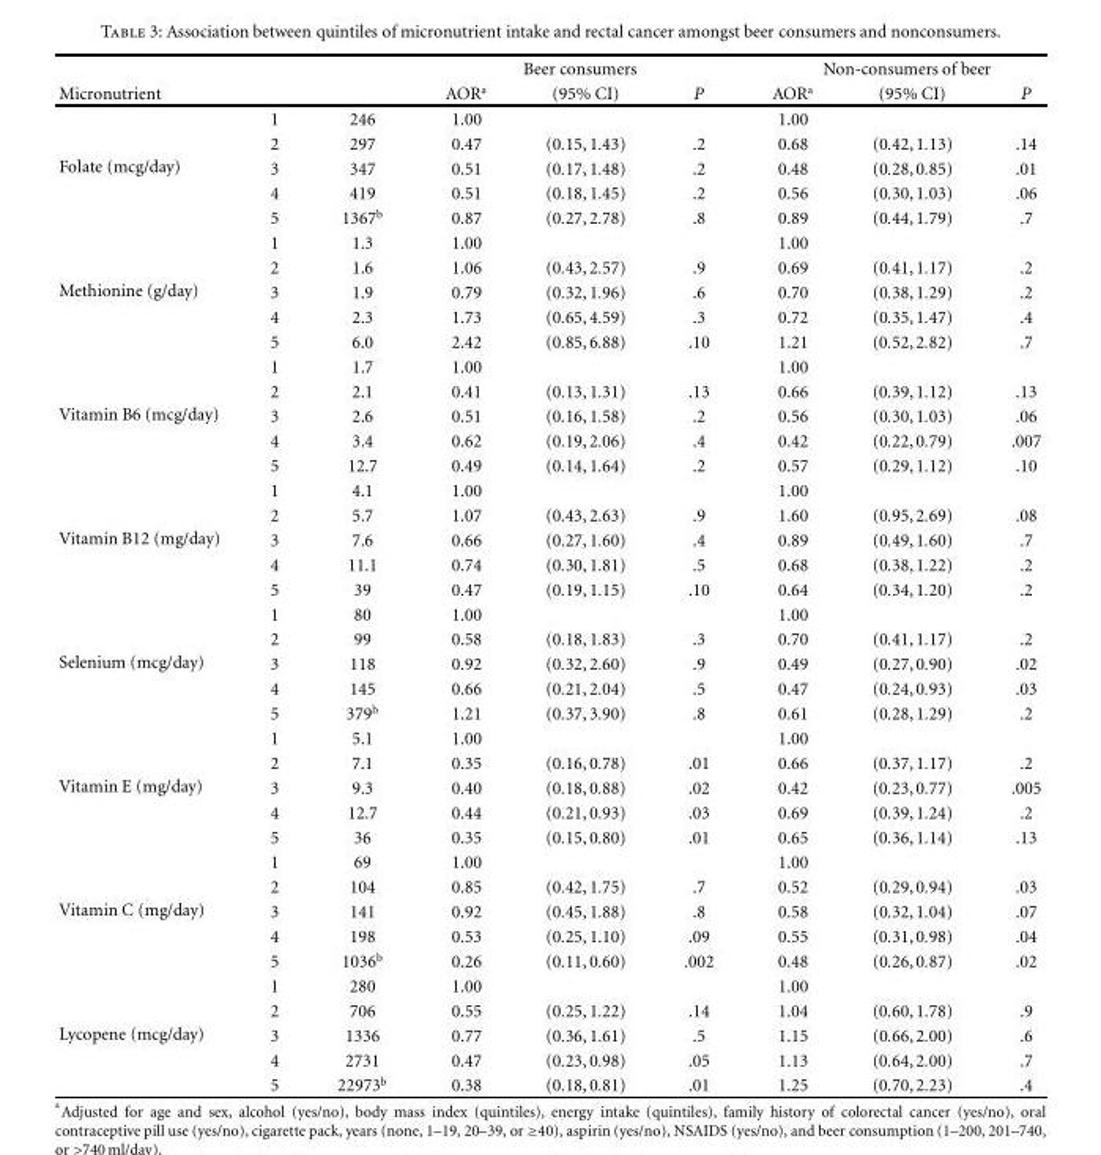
<table><thead><tr><td rowspan="2">Micronutrient</td><td rowspan="2"></td><td rowspan="2"></td><td colspan="3">Beer consumers</td><td colspan="3">Non-consumers of beer</td></tr><tr><td>AOR<sup>a</sup></td><td>(95% CI)</td><td>P</td><td>AOR<sup>a</sup></td><td>(95% CI)</td><td>P</td></tr></thead><tbody><tr><td rowspan="5">Folate (mcg/day)</td><td>1</td><td>246</td><td>1.00</td><td></td><td></td><td>1.00</td><td></td><td></td></tr><tr><td>2</td><td>297</td><td>0.47</td><td>(0.15,1.43)</td><td>.2</td><td>0.68</td><td>(0.42,1.13)</td><td>.14</td></tr><tr><td>3</td><td>347</td><td>0.51</td><td>(0.17,1.48)</td><td>.2</td><td>0.48</td><td>(0.28,0.85)</td><td>.01</td></tr><tr><td>4</td><td>419</td><td>0.51</td><td>(0.18,1.45)</td><td>.2</td><td>0.56</td><td>(0.30,1.03)</td><td>.06</td></tr><tr><td>5</td><td>1367<sup>b</sup></td><td>0.87</td><td>(0.27,2.78)</td><td>.8</td><td>0.89</td><td>(0.44,1.79)</td><td>.7</td></tr><tr><td rowspan="5">Methionine (g/day)</td><td>1</td><td>1.3</td><td>1.00</td><td></td><td></td><td>1.00</td><td></td><td></td></tr><tr><td>2</td><td>1.6</td><td>1.06</td><td>(0.43,2.57)</td><td>.9</td><td>0.69</td><td>(0.41,1.17)</td><td>.2</td></tr><tr><td>3</td><td>1.9</td><td>0.79</td><td>(0.32,1.96)</td><td>.6</td><td>0.70</td><td>(0.38,1.29)</td><td>.2</td></tr><tr><td>4</td><td>2.3</td><td>1.73</td><td>(0.65,4.59)</td><td>.3</td><td>0.72</td><td>(0.35,1.47)</td><td>.4</td></tr><tr><td>5</td><td>6.0</td><td>2.42</td><td>(0.85,6.88)</td><td>.10</td><td>1.21</td><td>(0.52,2.82)</td><td>.7</td></tr><tr><td rowspan="5">Vitamin B6 (mcg/day)</td><td>1</td><td>1.7</td><td>1.00</td><td></td><td></td><td>1.00</td><td></td><td></td></tr><tr><td>2</td><td>2.1</td><td>0.41</td><td>(0.13,1.31)</td><td>.13</td><td>0.66</td><td>(0.39,1.12)</td><td>.13</td></tr><tr><td>3</td><td>2.6</td><td>0.51</td><td>(0.16,1.58)</td><td>.2</td><td>0.56</td><td>(0.30,1.03)</td><td>.06</td></tr><tr><td>4</td><td>3.4</td><td>0.62</td><td>(0.19,2.06)</td><td>.4</td><td>0.42</td><td>(0.22,0.79)</td><td>.007</td></tr><tr><td>5</td><td>12.7</td><td>0.49</td><td>(0.14,1.64)</td><td>.2</td><td>0.57</td><td>(0.29,1.12)</td><td>.10</td></tr><tr><td rowspan="5">Vitamin B12 (mg/day)</td><td>1</td><td>4.1</td><td>1.00</td><td></td><td></td><td>1.00</td><td></td><td></td></tr><tr><td>2</td><td>5.7</td><td>1.07</td><td>(0.43,2.63)</td><td>.9</td><td>1.60</td><td>(0.95,2.69)</td><td>.08</td></tr><tr><td>3</td><td>7.6</td><td>0.66</td><td>(0.27,1.60)</td><td>.4</td><td>0.89</td><td>(0.49,1.60)</td><td>.7</td></tr><tr><td>4</td><td>11.1</td><td>0.74</td><td>(0.30,1.81)</td><td>.5</td><td>0.68</td><td>(0.38,1.22)</td><td>.2</td></tr><tr><td>5</td><td>39</td><td>0.47</td><td>(0.19,1.15)</td><td>.10</td><td>0.64</td><td>(0.34,1.20)</td><td>.2</td></tr><tr><td rowspan="5">Selenium (mcg/day)</td><td>1</td><td>80</td><td>1.00</td><td></td><td></td><td>1.00</td><td></td><td></td></tr><tr><td>2</td><td>99</td><td>0.58</td><td>(0.18,1.83)</td><td>.3</td><td>0.70</td><td>(0.41,1.17)</td><td>.2</td></tr><tr><td>3</td><td>118</td><td>0.92</td><td>(0.32,2.60)</td><td>.9</td><td>0.49</td><td>(0.27,0.90)</td><td>.02</td></tr><tr><td>4</td><td>145</td><td>0.66</td><td>(0.21,2.04)</td><td>.5</td><td>0.47</td><td>(0.24,0.93)</td><td>.03</td></tr><tr><td>5</td><td>379<sup>b</sup></td><td>1.21</td><td>(0.37,3.90)</td><td>.8</td><td>0.61</td><td>(0.28,1.29)</td><td>.2</td></tr><tr><td rowspan="5">Vitamin E (mg/day)</td><td>1</td><td>5.1</td><td>1.00</td><td></td><td></td><td>1.00</td><td></td><td></td></tr><tr><td>2</td><td>7.1</td><td>0.35</td><td>(0.16,0.78)</td><td>.01</td><td>0.66</td><td>(0.37,1.17)</td><td>.2</td></tr><tr><td>3</td><td>9.3</td><td>0.40</td><td>(0.18,0.88)</td><td>.02</td><td>0.42</td><td>(0.23,0.77)</td><td>.005</td></tr><tr><td>4</td><td>12.7</td><td>0.44</td><td>(0.21,0.93)</td><td>.03</td><td>0.69</td><td>(0.39,1.24)</td><td>.2</td></tr><tr><td>5</td><td>36</td><td>0.35</td><td>(0.15,0.80)</td><td>.01</td><td>0.65</td><td>(0.36,1.14)</td><td>.13</td></tr><tr><td rowspan="5">Vitamin C (mg/day)</td><td>1</td><td>69</td><td>1.00</td><td></td><td></td><td>1.00</td><td></td><td></td></tr><tr><td>2</td><td>104</td><td>0.85</td><td>(0.42,1.75)</td><td>.7</td><td>0.52</td><td>(0.29,0.94)</td><td>.03</td></tr><tr><td>3</td><td>141</td><td>0.92</td><td>(0.45,1.88)</td><td>.8</td><td>0.58</td><td>(0.32,1.04)</td><td>.07</td></tr><tr><td>4</td><td>198</td><td>0.53</td><td>(0.25,1.10)</td><td>.09</td><td>0.55</td><td>(0.31,0.98)</td><td>.04</td></tr><tr><td>5</td><td>1036<sup>b</sup></td><td>0.26</td><td>(0.11,0.60)</td><td>.002</td><td>0.48</td><td>(0.26,0.87)</td><td>.02</td></tr><tr><td rowspan="5">Lycopene (mcg/day)</td><td>1</td><td>280</td><td>1.00</td><td></td><td></td><td>1.00</td><td></td><td></td></tr><tr><td>2</td><td>706</td><td>0.55</td><td>(0.25,1.22)</td><td>.14</td><td>1.04</td><td>(0.60,1.78)</td><td>.9</td></tr><tr><td>3</td><td>1336</td><td>0.77</td><td>(0.36,1.61)</td><td>.5</td><td>1.15</td><td>(0.66,2.00)</td><td>.6</td></tr><tr><td>4</td><td>2731</td><td>0.47</td><td>(0.23,0.98)</td><td>.05</td><td>1.13</td><td>(0.64,2.00)</td><td>.7</td></tr><tr><td>5</td><td>22973<sup>b</sup></td><td>0.38</td><td>(0.18,0.81)</td><td>.01</td><td>1.25</td><td>(0.70,2.23)</td><td>.4</td></tr></tbody></table>